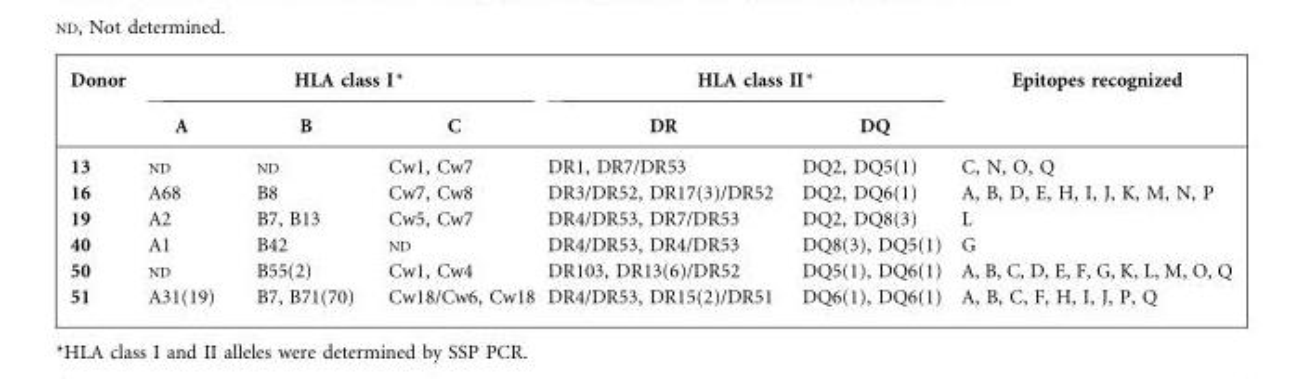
<table><thead><tr><td rowspan="2">Donor</td><td colspan="3">HLA class I*</td><td colspan="2">HLA class II*</td><td rowspan="2">Epitopes recognized</td></tr><tr><td>A</td><td>B</td><td>C</td><td>DR</td><td>DQ</td></tr></thead><tbody><tr><td>13</td><td>ND</td><td>ND</td><td>Cw1, Cw7</td><td>DR1, DR7/DR53</td><td>DQ2, DQ5(1)</td><td>C, N, O, Q</td></tr><tr><td>16</td><td>A68</td><td>B8</td><td>Cw7, Cw8</td><td>DR3/DR52, DR17(3)/DR52</td><td>DQ2, DQ6(1)</td><td>A, B, D, E, H, I, J, K, M, N, P</td></tr><tr><td>19</td><td>A2</td><td>B7, B13</td><td>Cw5, Cw7</td><td>DR4/DR53, DR7/DR53</td><td>DQ2, DQ8(3)</td><td>L</td></tr><tr><td>40</td><td>A1</td><td>B42</td><td>ND</td><td>DR4/DR53, DR4/DR53</td><td>DQ8(3), DQ5(1)</td><td>G</td></tr><tr><td>50</td><td>ND</td><td>B55(2)</td><td>Cw1, Cw4</td><td>DR103, DR13(6)/DR52</td><td>DQ5(1), DQ6(1)</td><td>A, B, C, D, E, F, G, K, L, M, O, Q</td></tr><tr><td>51</td><td>A31(19)</td><td>B7, B71(70)</td><td>Cw18/Cw6, Cw18</td><td>DR4/DR53, DR15(2)/DR51</td><td>DQ6(1), DQ6(1)</td><td>A, B, C, F, H, I, J, P, Q</td></tr></tbody></table>